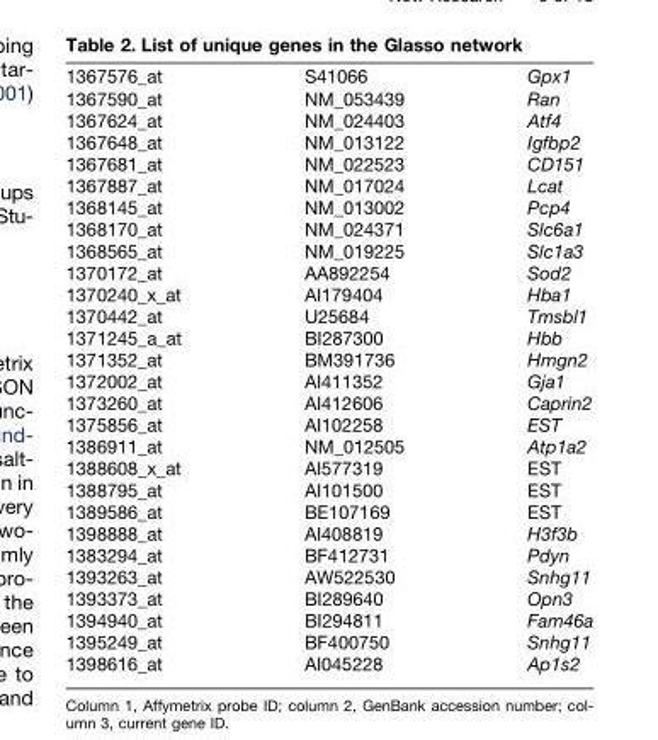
<table><tbody><tr><td>1367576_at</td><td>S41066</td><td>Gpx1</td></tr><tr><td>1367590_at</td><td>NM_053439</td><td>Ran</td></tr><tr><td>1367624_at</td><td>NM_024403</td><td>Atf4</td></tr><tr><td>1367648_at</td><td>NM_013122</td><td>Igfbp2</td></tr><tr><td>1367681_at</td><td>NM_022523</td><td>CD151</td></tr><tr><td>1367887_at</td><td>NM_017024</td><td>Lcat</td></tr><tr><td>1368145_at</td><td>NM_013002</td><td>Pcp4</td></tr><tr><td>1368170_at</td><td>NM_024371</td><td>Slc6a1</td></tr><tr><td>1368565_at</td><td>NM_019225</td><td>Slc1a3</td></tr><tr><td>1370172_at</td><td>AA892254</td><td>Sod2</td></tr><tr><td>1370240_x_at</td><td>AI179404</td><td>Hba1</td></tr><tr><td>1370442_at</td><td>U25684</td><td>Tmsbl1</td></tr><tr><td>1371245_a_at</td><td>BI287300</td><td>Hbb</td></tr><tr><td>1371352_at</td><td>BM391736</td><td>Hmgn2</td></tr><tr><td>1372002_at</td><td>AI411352</td><td>Gja1</td></tr><tr><td>1373260_at</td><td>AI412606</td><td>Caprin2</td></tr><tr><td>1375856_at</td><td>AI102258</td><td>EST</td></tr><tr><td>1386911_at</td><td>NM_012505</td><td>Atp1a2</td></tr><tr><td>1388608_x_at</td><td>AI577319</td><td>EST</td></tr><tr><td>1388795_at</td><td>AI101500</td><td>EST</td></tr><tr><td>1389586_at</td><td>BE107169</td><td>EST</td></tr><tr><td>1398888_at</td><td>AI408819</td><td>H3f3b</td></tr><tr><td>1383294_at</td><td>BF412731</td><td>Pdyn</td></tr><tr><td>1393263_at</td><td>AW522530</td><td>Snhg11</td></tr><tr><td>1393373_at</td><td>BI289640</td><td>Opn3</td></tr><tr><td>1394940_at</td><td>BI294811</td><td>Fam46a</td></tr><tr><td>1395249_at</td><td>BF400750</td><td>Snhg11</td></tr><tr><td>1398616_at</td><td>AI045228</td><td>Ap1s2</td></tr></tbody></table>